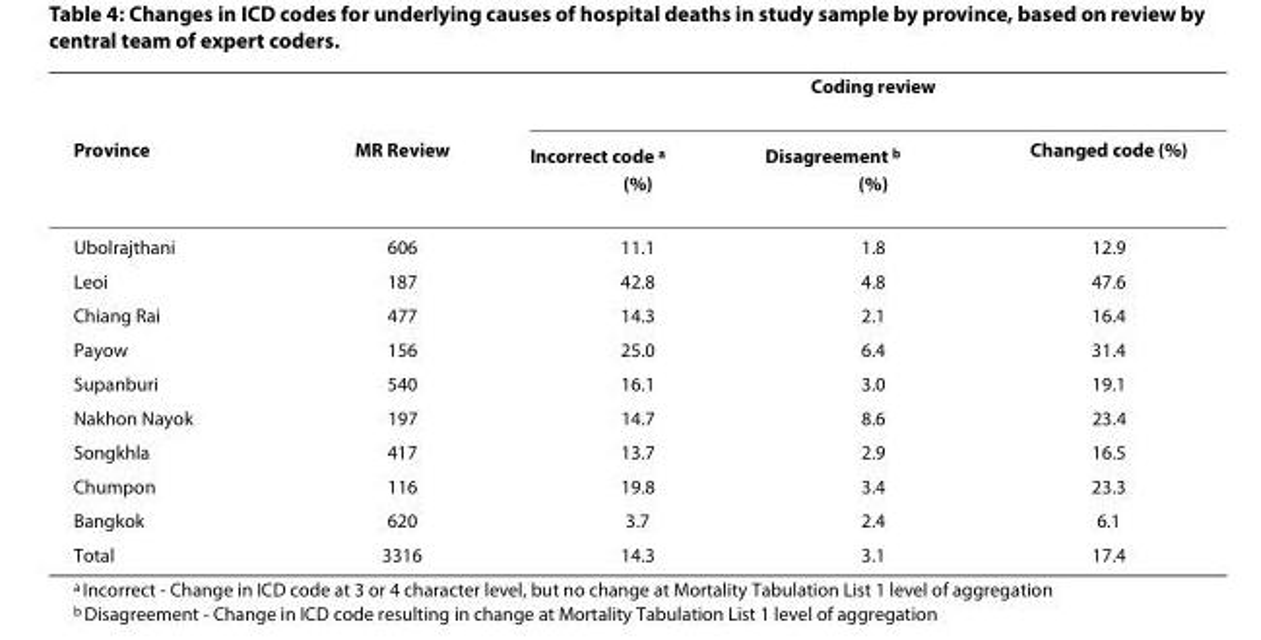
<table><thead><tr><td rowspan="2">Province</td><td rowspan="2">MR Review</td><td colspan="3">Coding review</td></tr><tr><td>Incorrect code <sup>a</sup> (%)</td><td>Disagreement <sup>b</sup> (%)</td><td>Changed code (%)</td></tr></thead><tbody><tr><td>Ubolrajthani</td><td>606</td><td>11.1</td><td>1.8</td><td>12.9</td></tr><tr><td>Leoi</td><td>187</td><td>42.8</td><td>4.8</td><td>47.6</td></tr><tr><td>Chiang Rai</td><td>477</td><td>14.3</td><td>2.1</td><td>16.4</td></tr><tr><td>Payow</td><td>156</td><td>25.0</td><td>6.4</td><td>31.4</td></tr><tr><td>Supanburi</td><td>540</td><td>16.1</td><td>3.0</td><td>19.1</td></tr><tr><td>Nakhon Nayok</td><td>197</td><td>14.7</td><td>8.6</td><td>23.4</td></tr><tr><td>Songkhla</td><td>417</td><td>13.7</td><td>2.9</td><td>16.5</td></tr><tr><td>Chumpon</td><td>116</td><td>19.8</td><td>3.4</td><td>23.3</td></tr><tr><td>Bangkok</td><td>620</td><td>3.7</td><td>2.4</td><td>6.1</td></tr><tr><td>Total</td><td>3316</td><td>14.3</td><td>3.1</td><td>17.4</td></tr></tbody></table>